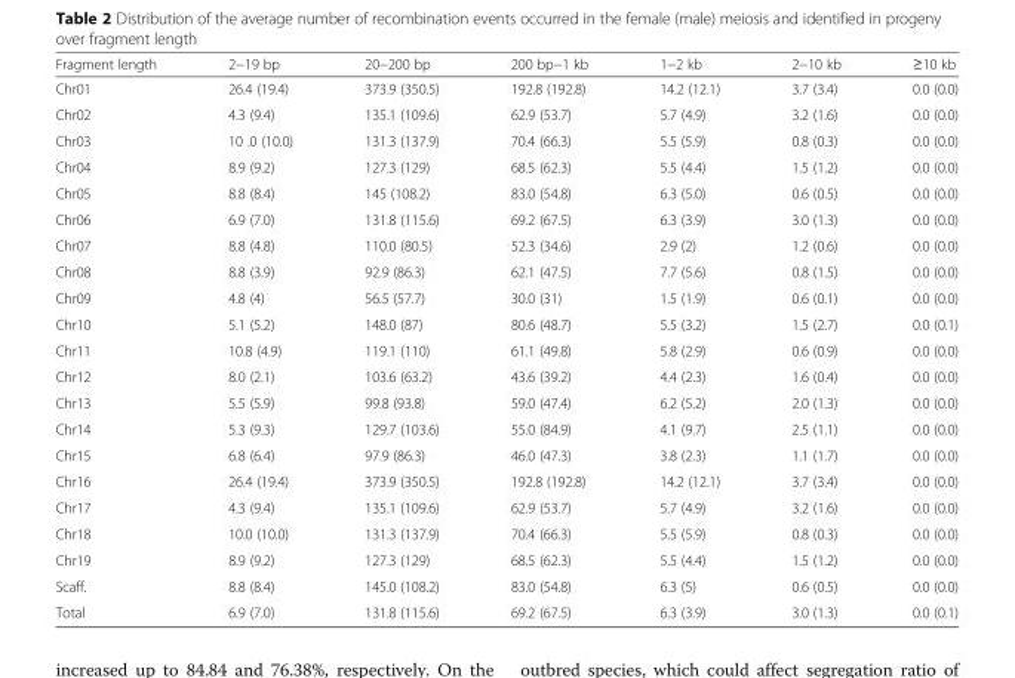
<table><thead><tr><td>Fragment length</td><td>2−19 bp</td><td>20−200 bp</td><td>200 bp−1 kb</td><td>1−2 kb</td><td>2−10 kb</td><td>≥10 kb</td></tr></thead><tbody><tr><td>Chr01</td><td>26.4 (19.4)</td><td>373.9 (350.5)</td><td>192.8 (192.8)</td><td>14.2 (12.1)</td><td>3.7 (3.4)</td><td>0.0 (0.0)</td></tr><tr><td>Chr02</td><td>4.3 (9.4)</td><td>135.1 (109.6)</td><td>62.9 (53.7)</td><td>5.7 (4.9)</td><td>3.2 (1.6)</td><td>0.0 (0.0)</td></tr><tr><td>Chr03</td><td>10 .0 (10.0)</td><td>131.3 (137.9)</td><td>70.4 (66.3)</td><td>5.5 (5.9)</td><td>0.8 (0.3)</td><td>0.0 (0.0)</td></tr><tr><td>Chr04</td><td>8.9 (9.2)</td><td>127.3 (129)</td><td>68.5 (62.3)</td><td>5.5 (4.4)</td><td>1.5 (1.2)</td><td>0.0 (0.0)</td></tr><tr><td>Chr05</td><td>8.8 (8.4)</td><td>145 (108.2)</td><td>83.0 (54.8)</td><td>6.3 (5.0)</td><td>0.6 (0.5)</td><td>0.0 (0.0)</td></tr><tr><td>Chr06</td><td>6.9 (7.0)</td><td>131.8 (115.6)</td><td>69.2 (67.5)</td><td>6.3 (3.9)</td><td>3.0 (1.3)</td><td>0.0 (0.0)</td></tr><tr><td>Chr07</td><td>8.8 (4.8)</td><td>110.0 (80.5)</td><td>52.3 (34.6)</td><td>2.9 (2)</td><td>1.2 (0.6)</td><td>0.0 (0.0)</td></tr><tr><td>Chr08</td><td>8.8 (3.9)</td><td>92.9 (86.3)</td><td>62.1 (47.5)</td><td>7.7 (5.6)</td><td>0.8 (1.5)</td><td>0.0 (0.0)</td></tr><tr><td>Chr09</td><td>4.8 (4)</td><td>56.5 (57.7)</td><td>30.0 (31)</td><td>1.5 (1.9)</td><td>0.6 (0.1)</td><td>0.0 (0.0)</td></tr><tr><td>Chr10</td><td>5.1 (5.2)</td><td>148.0 (87)</td><td>80.6 (48.7)</td><td>5.5 (3.2)</td><td>1.5 (2.7)</td><td>0.0 (0.1)</td></tr><tr><td>Chr11</td><td>10.8 (4.9)</td><td>119.1 (110)</td><td>61.1 (49.8)</td><td>5.8 (2.9)</td><td>0.6 (0.9)</td><td>0.0 (0.0)</td></tr><tr><td>Chr12</td><td>8.0 (2.1)</td><td>103.6 (63.2)</td><td>43.6 (39.2)</td><td>4.4 (2.3)</td><td>1.6 (0.4)</td><td>0.0 (0.0)</td></tr><tr><td>Chr13</td><td>5.5 (5.9)</td><td>99.8 (93.8)</td><td>59.0 (47.4)</td><td>6.2 (5.2)</td><td>2.0 (1.3)</td><td>0.0 (0.0)</td></tr><tr><td>Chr14</td><td>5.3 (9.3)</td><td>129.7 (103.6)</td><td>55.0 (84.9)</td><td>4.1 (9.7)</td><td>2.5 (1.1)</td><td>0.0 (0.0)</td></tr><tr><td>Chr15</td><td>6.8 (6.4)</td><td>97.9 (86.3)</td><td>46.0 (47.3)</td><td>3.8 (2.3)</td><td>1.1 (1.7)</td><td>0.0 (0.0)</td></tr><tr><td>Chr16</td><td>26.4 (19.4)</td><td>373.9 (350.5)</td><td>192.8 (192.8)</td><td>14.2 (12.1)</td><td>3.7 (3.4)</td><td>0.0 (0.0)</td></tr><tr><td>Chr17</td><td>4.3 (9.4)</td><td>135.1 (109.6)</td><td>62.9 (53.7)</td><td>5.7 (4.9)</td><td>3.2 (1.6)</td><td>0.0 (0.0)</td></tr><tr><td>Chr18</td><td>10.0 (10.0)</td><td>131.3 (137.9)</td><td>70.4 (66.3)</td><td>5.5 (5.9)</td><td>0.8 (0.3)</td><td>0.0 (0.0)</td></tr><tr><td>Chr19</td><td>8.9 (9.2)</td><td>127.3 (129)</td><td>68.5 (62.3)</td><td>5.5 (4.4)</td><td>1.5 (1.2)</td><td>0.0 (0.0)</td></tr><tr><td>Scaff.</td><td>8.8 (8.4)</td><td>145.0 (108.2)</td><td>83.0 (54.8)</td><td>6.3 (5)</td><td>0.6 (0.5)</td><td>0.0 (0.0)</td></tr><tr><td>Total</td><td>6.9 (7.0)</td><td>131.8 (115.6)</td><td>69.2 (67.5)</td><td>6.3 (3.9)</td><td>3.0 (1.3)</td><td>0.0 (0.1)</td></tr></tbody></table>